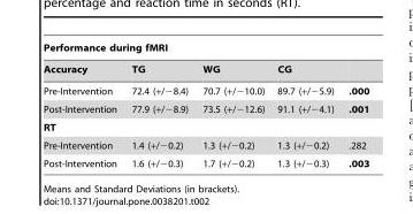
<table><thead><tr><td colspan="5">Performance during fMRI</td></tr><tr><td>Accuracy</td><td>TG</td><td>WG</td><td>CG</td><td></td></tr></thead><tbody><tr><td>Pre-Intervention</td><td>72.4 (+/−8.4)</td><td>70.7 (+/−10.0)</td><td>89.7 (+/−5.9)</td><td>.000</td></tr><tr><td>Post-Intervention</td><td>77.9 (+/−8.9)</td><td>73.5 (+/−12.6)</td><td>91.1 (+/−4.1)</td><td>.001</td></tr><tr><td colspan="5">RT</td></tr><tr><td>Pre-Intervention</td><td>1.4 (+/−0.2)</td><td>1.3 (+/−0.2)</td><td>1.3 (+/−0.2)</td><td>.282</td></tr><tr><td>Post-Intervention</td><td>1.6 (+/−0.3)</td><td>1.7 (+/−0.2)</td><td>1.3 (+/−0.3)</td><td>.003</td></tr></tbody></table>